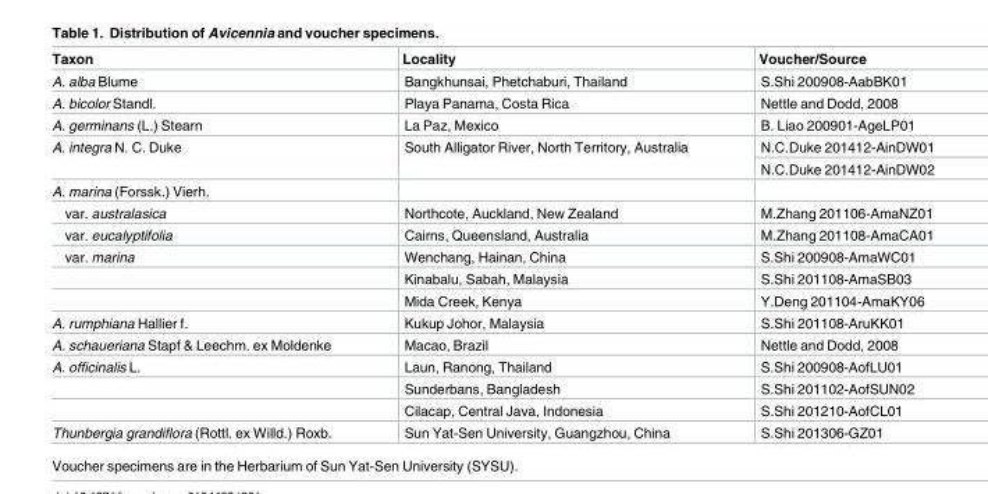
<table><thead><tr><td>Taxon</td><td>Locality</td><td>Voucher/Source</td></tr></thead><tbody><tr><td>A. alba Blume</td><td>Bangkhunsai, Phetchaburi, Thailand</td><td>S.Shi 200908-AabBK01</td></tr><tr><td>A. bicolor Standl.</td><td>Playa Panama, Costa Rica</td><td>Nettle and Dodd, 2008</td></tr><tr><td>A. germinans (L.) Stearn</td><td>La Paz, Mexico</td><td>B. Liao 200901-AgeLP01</td></tr><tr><td rowspan="2">A. integra N. C. Duke</td><td rowspan="2">South Alligator River, North Territory, Australia</td><td>N.C.Duke 201412-AinDW01</td></tr><tr><td>N.C.Duke 201412-AinDW02</td></tr><tr><td colspan="3">A. marina (Forssk.) Vierh.</td></tr><tr><td>var. australasica</td><td>Northcote, Auckland, New Zealand</td><td>M.Zhang 201106-AmaNZ01</td></tr><tr><td>var. eucalyptifolia</td><td>Cairns, Queensland, Australia</td><td>M.Zhang 201108-AmaCA01</td></tr><tr><td rowspan="3">var. marina</td><td>Wenchang, Hainan, China</td><td>S.Shi 200908-AmaWC01</td></tr><tr><td>Kinabalu, Sabah, Malaysia</td><td>S.Shi 201108-AmaSB03</td></tr><tr><td>Mida Creek, Kenya</td><td>Y.Deng 201104-AmaKY06</td></tr><tr><td>A. rumphiana Hallier f.</td><td>Kukup Johor, Malaysia</td><td>S.Shi 201108-AruKK01</td></tr><tr><td>A. schaueriana Stapf &amp; Leechm. ex Moldenke</td><td>Macao, Brazil</td><td>Nettle and Dodd, 2008</td></tr><tr><td rowspan="3">A. officinalis L.</td><td>Laun, Ranong, Thailand</td><td>S.Shi 200908-AofLU01</td></tr><tr><td>Sunderbans, Bangladesh</td><td>S.Shi 201102-AofSUN02</td></tr><tr><td>Cilacap, Central Java, Indonesia</td><td>S.Shi 201210-AofCL01</td></tr><tr><td>Thunbergia grandiflora (Rottl. ex Willd.) Roxb.</td><td>Sun Yat-Sen University, Guangzhou, China</td><td>S.Shi 201306-GZ01</td></tr></tbody></table>